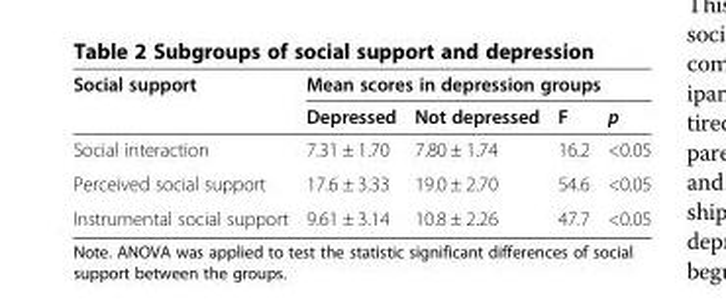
<table><thead><tr><td rowspan="2">Social support</td><td colspan="4">Mean scores in depression groups</td></tr><tr><td>Depressed</td><td>Not depressed</td><td>F</td><td>p</td></tr></thead><tbody><tr><td>Social interaction</td><td>7.31 ± 1.70</td><td>7.80 ± 1.74</td><td>16.2</td><td>&lt;0.05</td></tr><tr><td>Perceived social support</td><td>17.6 ± 3.33</td><td>19.0 ± 2.70</td><td>54.6</td><td>&lt;0.05</td></tr><tr><td>Instrumental social support</td><td>9.61 ± 3.14</td><td>10.8 ± 2.26</td><td>47.7</td><td>&lt;0.05</td></tr></tbody></table>